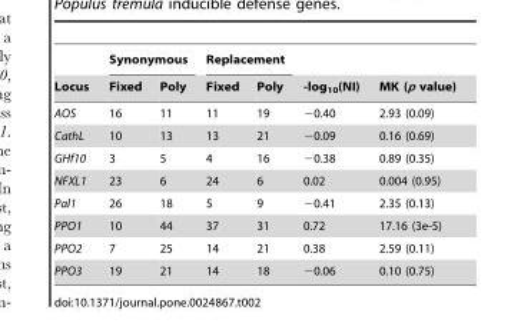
<table><thead><tr><td rowspan="2">Locus</td><td colspan="2">Synonymous</td><td colspan="2">Replacement</td><td rowspan="2">-log<sub>10</sub>(NI)</td><td rowspan="2">MK (p value)</td></tr><tr><td>Fixed</td><td>Poly</td><td>Fixed</td><td>Poly</td></tr></thead><tbody><tr><td>AOS</td><td>16</td><td>11</td><td>11</td><td>19</td><td>−0.40</td><td>2.93 (0.09)</td></tr><tr><td>CathL</td><td>10</td><td>13</td><td>13</td><td>21</td><td>−0.09</td><td>0.16 (0.69)</td></tr><tr><td>GHf10</td><td>3</td><td>5</td><td>4</td><td>16</td><td>−0.38</td><td>0.89 (0.35)</td></tr><tr><td>NFXL1</td><td>23</td><td>6</td><td>24</td><td>6</td><td>0.02</td><td>0.004 (0.95)</td></tr><tr><td>Pal1</td><td>26</td><td>18</td><td>5</td><td>9</td><td>−0.41</td><td>2.35 (0.13)</td></tr><tr><td>PPO1</td><td>10</td><td>44</td><td>37</td><td>31</td><td>0.72</td><td>17.16 (3e-5)</td></tr><tr><td>PPO2</td><td>7</td><td>25</td><td>14</td><td>21</td><td>0.38</td><td>2.59 (0.11)</td></tr><tr><td>PPO3</td><td>19</td><td>21</td><td>14</td><td>18</td><td>−0.06</td><td>0.10 (0.75)</td></tr></tbody></table>